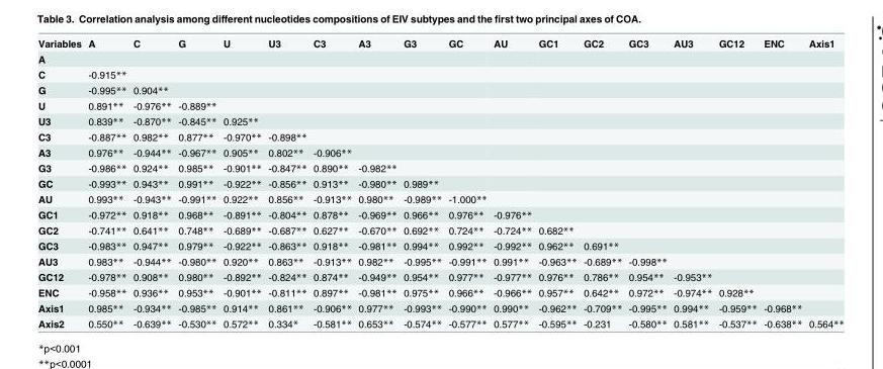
<table><tbody><tr><td>Variables</td><td>A</td><td>C</td><td>G</td><td>U</td><td>U3</td><td>C3</td><td>A3</td><td>G3</td><td>GC</td><td>AU</td><td>GC1</td><td>GC2</td><td>GC3</td><td>AU3</td><td>GC12</td><td>ENC</td><td>Axis1</td></tr><tr><td colspan="18">A</td></tr><tr><td>C</td><td>-0.915**</td><td></td><td></td><td></td><td></td><td></td><td></td><td></td><td></td><td></td><td></td><td></td><td></td><td></td><td></td><td></td><td></td></tr><tr><td>G</td><td>-0.995**</td><td>0.904**</td><td></td><td></td><td></td><td></td><td></td><td></td><td></td><td></td><td></td><td></td><td></td><td></td><td></td><td></td><td></td></tr><tr><td>U</td><td>0.891**</td><td>-0.976**</td><td>-0.889**</td><td></td><td></td><td></td><td></td><td></td><td></td><td></td><td></td><td></td><td></td><td></td><td></td><td></td><td></td></tr><tr><td>U3</td><td>0.839**</td><td>-0.870**</td><td>-0.845**</td><td>0.925**</td><td></td><td></td><td></td><td></td><td></td><td></td><td></td><td></td><td></td><td></td><td></td><td></td><td></td></tr><tr><td>C3</td><td>-0.887**</td><td>0.982**</td><td>0.877**</td><td>-0.970**</td><td>-0.898**</td><td></td><td></td><td></td><td></td><td></td><td></td><td></td><td></td><td></td><td></td><td></td><td></td></tr><tr><td>A3</td><td>0.976**</td><td>-0.944**</td><td>-0.967**</td><td>0.905**</td><td>0.802**</td><td>-0.906**</td><td></td><td></td><td></td><td></td><td></td><td></td><td></td><td></td><td></td><td></td><td></td></tr><tr><td>G3</td><td>-0.986**</td><td>0.924**</td><td>0.985**</td><td>-0.901**</td><td>-0.847**</td><td>0.890**</td><td>-0.982**</td><td></td><td></td><td></td><td></td><td></td><td></td><td></td><td></td><td></td><td></td></tr><tr><td>GC</td><td>-0.993**</td><td>0.943**</td><td>0.991**</td><td>-0.922**</td><td>-0.856**</td><td>0.913**</td><td>-0.980**</td><td>0.989**</td><td></td><td></td><td></td><td></td><td></td><td></td><td></td><td></td><td></td></tr><tr><td>AU</td><td>0.993**</td><td>-0.943**</td><td>-0.991**</td><td>0.922**</td><td>0.856**</td><td>-0.913**</td><td>0.980**</td><td>-0.989**</td><td>-1.000**</td><td></td><td></td><td></td><td></td><td></td><td></td><td></td><td></td></tr><tr><td>GC1</td><td>-0.972**</td><td>0.918**</td><td>0.968**</td><td>-0.891**</td><td>-0.804**</td><td>0.878**</td><td>-0.969**</td><td>0.966**</td><td>0.976**</td><td>-0.976**</td><td></td><td></td><td></td><td></td><td></td><td></td><td></td></tr><tr><td>GC2</td><td>-0.741**</td><td>0.641**</td><td>0.748**</td><td>-0.689**</td><td>-0.687**</td><td>0.627**</td><td>-0.670**</td><td>0.692**</td><td>0.724**</td><td>-0.724**</td><td>0.682**</td><td></td><td></td><td></td><td></td><td></td><td></td></tr><tr><td>GC3</td><td>-0.983**</td><td>0.947**</td><td>0.979**</td><td>-0.922**</td><td>-0.863**</td><td>0.918**</td><td>-0.981**</td><td>0.994**</td><td>0.992**</td><td>-0.992**</td><td>0.962**</td><td>0.691**</td><td></td><td></td><td></td><td></td><td></td></tr><tr><td>AU3</td><td>0.983**</td><td>-0.944**</td><td>-0.980**</td><td>0.920**</td><td>0.863**</td><td>-0.913**</td><td>0.982**</td><td>-0.995**</td><td>-0.991**</td><td>0.991**</td><td>-0.963**</td><td>-0.689**</td><td>-0.998**</td><td></td><td></td><td></td><td></td></tr><tr><td>GC12</td><td>-0.978**</td><td>0.908**</td><td>0.980**</td><td>-0.892**</td><td>-0.824**</td><td>0.874**</td><td>-0.949**</td><td>0.954**</td><td>0.977**</td><td>-0.977**</td><td>0.976**</td><td>0.786**</td><td>0.954**</td><td>-0.953**</td><td></td><td></td><td></td></tr><tr><td>ENC</td><td>-0.958**</td><td>0.936**</td><td>0.953**</td><td>-0.901**</td><td>-0.811**</td><td>0.897**</td><td>-0.981**</td><td>0.975**</td><td>0.966**</td><td>-0.966**</td><td>0.957**</td><td>0.642**</td><td>0.972**</td><td>-0.974**</td><td>0.928**</td><td></td><td></td></tr><tr><td>Axis1</td><td>0.985**</td><td>-0.934**</td><td>-0.985**</td><td>0.914**</td><td>0.861**</td><td>-0.906**</td><td>0.977**</td><td>-0.993**</td><td>-0.990**</td><td>0.990**</td><td>-0.962**</td><td>-0.709**</td><td>-0.995**</td><td>0.994**</td><td>-0.959**</td><td>-0.968**</td><td></td></tr><tr><td>Axis2</td><td>0.550**</td><td>-0.639**</td><td>-0.530**</td><td>0.572**</td><td>0.334*</td><td>-0.581**</td><td>0.653**</td><td>-0.574**</td><td>-0.577**</td><td>0.577**</td><td>-0.595**</td><td>-0.231</td><td>-0.580**</td><td>0.581**</td><td>-0.537**</td><td>-0.638**</td><td>0.564**</td></tr></tbody></table>